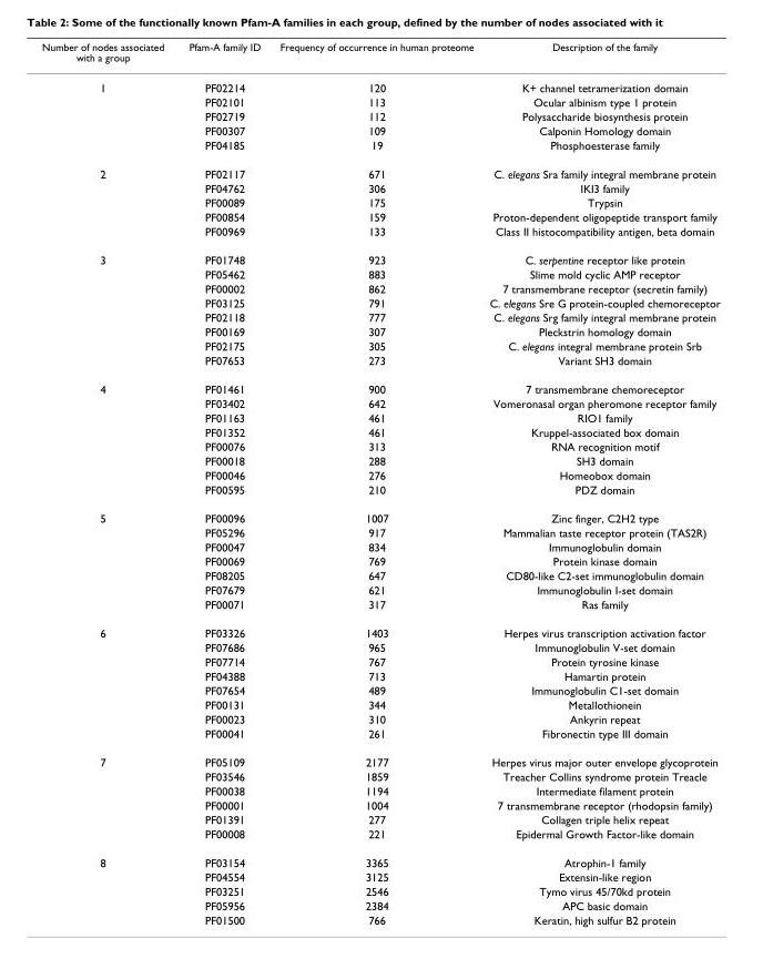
<table><thead><tr><td>Number of nodes associated with a group</td><td>Pfam-A family ID</td><td>Frequency of occurrence in human proteome</td><td>Description of the family</td></tr></thead><tbody><tr><td rowspan="5">1</td><td>PF02214</td><td>120</td><td>K+ channel tetramerization domain</td></tr><tr><td>PF02101</td><td>113</td><td>Ocular albinism type 1 protein</td></tr><tr><td>PF02719</td><td>112</td><td>Polysaccharide biosynthesis protein</td></tr><tr><td>PF00307</td><td>109</td><td>Calponin Homology domain</td></tr><tr><td>PF04185</td><td>19</td><td>Phosphoesterase family</td></tr><tr><td rowspan="5">2</td><td>PF02117</td><td>671</td><td>C. elegans Sra family integral membrane protein</td></tr><tr><td>PF04762</td><td>306</td><td>IKI3 family</td></tr><tr><td>PF00089</td><td>175</td><td>Trypsin</td></tr><tr><td>PF00854</td><td>159</td><td>Proton-dependent oligopeptide transport family</td></tr><tr><td>PF00969</td><td>133</td><td>Class II histocompatibility antigen, beta domain</td></tr><tr><td rowspan="8">3</td><td>PF01748</td><td>923</td><td>C. serpentine receptor like protein</td></tr><tr><td>PF05462</td><td>883</td><td>Slime mold cyclic AMP receptor</td></tr><tr><td>PF00002</td><td>862</td><td>7 transmembrane receptor (secretin family)</td></tr><tr><td>PF03125</td><td>791</td><td>C. elegans Sre G protein-coupled chemoreceptor</td></tr><tr><td>PF02118</td><td>777</td><td>C. elegans Srg family integral membrane protein</td></tr><tr><td>PF00169</td><td>307</td><td>Pleckstrin homology domain</td></tr><tr><td>PF02175</td><td>305</td><td>C. elegans integral membrane protein Srb</td></tr><tr><td>PF07653</td><td>273</td><td>Variant SH3 domain</td></tr><tr><td rowspan="8">4</td><td>PF01461</td><td>900</td><td>7 transmembrane chemoreceptor</td></tr><tr><td>PF03402</td><td>642</td><td>Vomeronasal organ pheromone receptor family</td></tr><tr><td>PF01163</td><td>461</td><td>RIO1 family</td></tr><tr><td>PF01352</td><td>461</td><td>Kruppel-associated box domain</td></tr><tr><td>PF00076</td><td>313</td><td>RNA recognition motif</td></tr><tr><td>PF00018</td><td>288</td><td>SH3 domain</td></tr><tr><td>PF00046</td><td>276</td><td>Homeobox domain</td></tr><tr><td>PF00595</td><td>210</td><td>PDZ domain</td></tr><tr><td rowspan="7">5</td><td>PF00096</td><td>1007</td><td>Zinc finger, C2H2 type</td></tr><tr><td>PF05296</td><td>917</td><td>Mammalian taste receptor protein (TAS2R)</td></tr><tr><td>PF00047</td><td>834</td><td>Immunoglobulin domain</td></tr><tr><td>PF00069</td><td>769</td><td>Protein kinase domain</td></tr><tr><td>PF08205</td><td>647</td><td>CD80-like C2-set immunoglobulin domain</td></tr><tr><td>PF07679</td><td>621</td><td>Immunoglobulin I-set domain</td></tr><tr><td>PF00071</td><td>317</td><td>Ras family</td></tr><tr><td rowspan="8">6</td><td>PF03326</td><td>1403</td><td>Herpes virus transcription activation factor</td></tr><tr><td>PF07686</td><td>965</td><td>Immunoglobulin V-set domain</td></tr><tr><td>PF07714</td><td>767</td><td>Protein tyrosine kinase</td></tr><tr><td>PF04388</td><td>713</td><td>Hamartin protein</td></tr><tr><td>PF07654</td><td>489</td><td>Immunoglobulin C1-set domain</td></tr><tr><td>PF00131</td><td>344</td><td>Metallothionein</td></tr><tr><td>PF00023</td><td>310</td><td>Ankyrin repeat</td></tr><tr><td>PF00041</td><td>261</td><td>Fibronectin type III domain</td></tr><tr><td rowspan="6">7</td><td>PF05109</td><td>2177</td><td>Herpes virus major outer envelope glycoprotein</td></tr><tr><td>PF03546</td><td>1859</td><td>Treacher Collins syndrome protein Treacle</td></tr><tr><td>PF00038</td><td>1194</td><td>Intermediate filament protein</td></tr><tr><td>PF00001</td><td>1004</td><td>7 transmembrane receptor (rhodopsin family)</td></tr><tr><td>PF01391</td><td>277</td><td>Collagen triple helix repeat</td></tr><tr><td>PF00008</td><td>221</td><td>Epidermal Growth Factor-like domain</td></tr><tr><td rowspan="5">8</td><td>PF03154</td><td>3365</td><td>Atrophin-1 family</td></tr><tr><td>PF04554</td><td>3125</td><td>Extensin-like region</td></tr><tr><td>PF03251</td><td>2546</td><td>Tymo virus 45/70kd protein</td></tr><tr><td>PF05956</td><td>2384</td><td>APC basic domain</td></tr><tr><td>PF01500</td><td>766</td><td>Keratin, high sulfur B2 protein</td></tr></tbody></table>